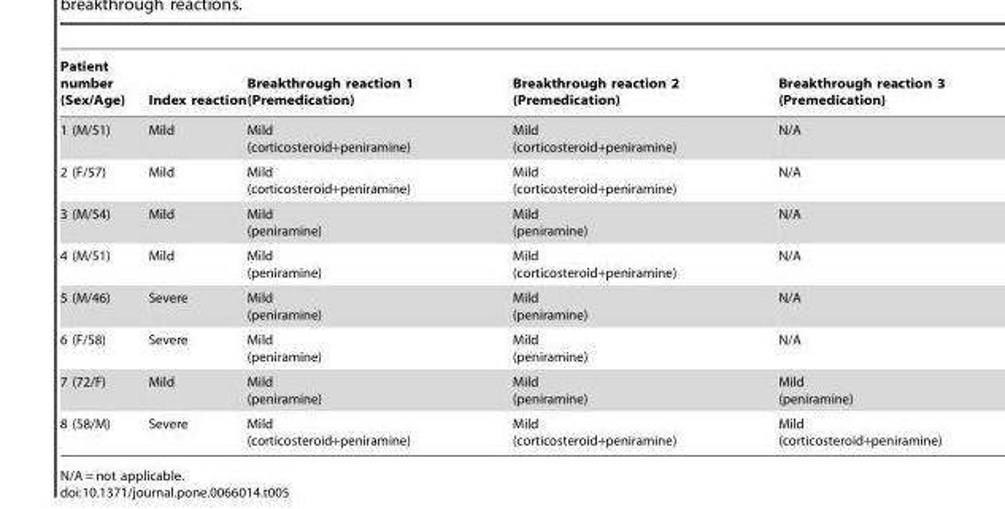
<table><thead><tr><td>Patient number (Sex/Age)</td><td>Index reaction</td><td>Breakthrough reaction 1 (Premedication)</td><td>Breakthrough reaction 2 (Premedication)</td><td>Breakthrough reaction 3 (Premedication)</td></tr></thead><tbody><tr><td>1 (M/51)</td><td>Mild</td><td>Mild (corticosteroid+peniramine)</td><td>Mild (corticosteroid+peniramine)</td><td>N/A</td></tr><tr><td>2 (F/57)</td><td>Mild</td><td>Mild (corticosteroid+peniramine)</td><td>Mild (corticosteroid+peniramine)</td><td>N/A</td></tr><tr><td>3 (M/54)</td><td>Mild</td><td>Mild (peniramine)</td><td>Mild (peniramine)</td><td>N/A</td></tr><tr><td>4 (M/51)</td><td>Mild</td><td>Mild (peniramine)</td><td>Mild (corticosteroid+peniramine)</td><td>N/A</td></tr><tr><td>5 (M/46)</td><td>Severe</td><td>Mild (peniramine)</td><td>Mild (peniramine)</td><td>N/A</td></tr><tr><td>6 (F/58)</td><td>Severe</td><td>Mild (peniramine)</td><td>Mild (peniramine)</td><td>N/A</td></tr><tr><td>7 (72/F)</td><td>Mild</td><td>Mild (peniramine)</td><td>Mild (peniramine)</td><td>Mild (peniramine)</td></tr><tr><td>8 (58/M)</td><td>Severe</td><td>Mild (corticosteroid+peniramine)</td><td>Mild (corticosteroid+peniramine)</td><td>Mild (corticosteroid+peniramine)</td></tr></tbody></table>